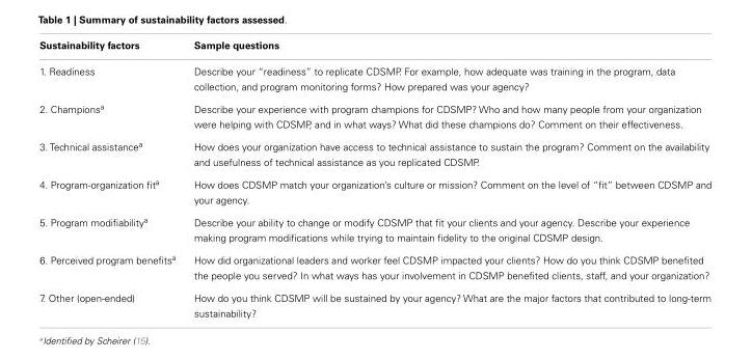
<table><thead><tr><td>Sustainability factors</td><td>Sample questions</td></tr></thead><tbody><tr><td>1. Readiness</td><td>Describe your “readiness” to replicate CDSMP. For example, how adequate was training in the program, data collection, and program monitoring forms? How prepared was your agency?</td></tr><tr><td>2. Champions<sup>a</sup></td><td>Describe your experience with program champions for CDSMP? Who and how many people from your organization were helping with CDSMP, and in what ways? What did these champions do? Comment on their effectiveness.</td></tr><tr><td>3. Technical assistance<sup>a</sup></td><td>How does your organization have access to technical assistance to sustain the program? Comment on the availability and usefulness of technical assistance as you replicated CDSMP.</td></tr><tr><td>4. Program-organization fit<sup>a</sup></td><td>How does CDSMP match your organization’s culture or mission? Comment on the level of “fit” between CDSMP and your agency.</td></tr><tr><td>5. Program modifiability<sup>a</sup></td><td>Describe your ability to change or modify CDSMP that fit your clients and your agency. Describe your experience making program modifications while trying to maintain fidelity to the original CDSMP design.</td></tr><tr><td>6. Perceived program benefits<sup>a</sup></td><td>How did organizational leaders and worker feel CDSMP impacted your clients? How do you think CDSMP benefited the people you served? In what ways has your involvement in CDSMP benefited clients, staff, and your organization?</td></tr><tr><td>7. Other (open-ended)</td><td>How do you think CDSMP will be sustained by your agency? What are the major factors that contributed to long-term sustainability?</td></tr></tbody></table>